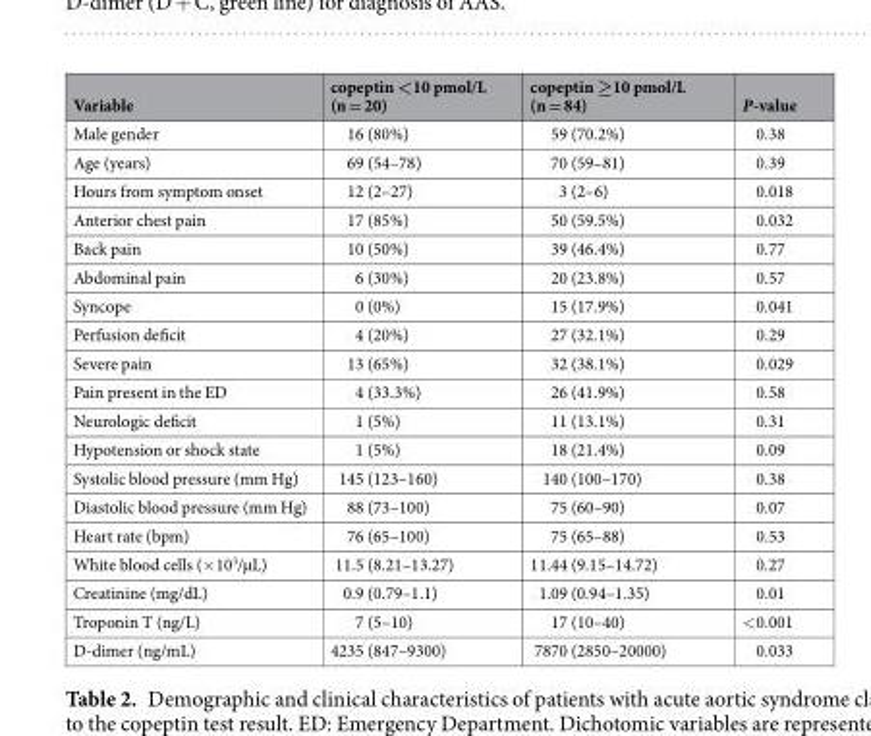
<table><thead><tr><td>Variable</td><td>copeptin &lt;10 pmol/L (n = 20)</td><td>copeptin ≥10 pmol/L (n = 84)</td><td>P-value</td></tr></thead><tbody><tr><td>Male gender</td><td>16 (80%)</td><td>59 (70.2%)</td><td>0.38</td></tr><tr><td>Age (years)</td><td>69 (54–78)</td><td>70 (59–81)</td><td>0.39</td></tr><tr><td>Hours from symptom onset</td><td>12 (2–27)</td><td>3 (2–6)</td><td>0.018</td></tr><tr><td>Anterior chest pain</td><td>17 (85%)</td><td>50 (59.5%)</td><td>0.032</td></tr><tr><td>Back pain</td><td>10 (50%)</td><td>39 (46.4%)</td><td>0.77</td></tr><tr><td>Abdominal pain</td><td>6 (30%)</td><td>20 (23.8%)</td><td>0.57</td></tr><tr><td>Syncope</td><td>0 (0%)</td><td>15 (17.9%)</td><td>0.041</td></tr><tr><td>Perfusion deficit</td><td>4 (20%)</td><td>27 (32.1%)</td><td>0.29</td></tr><tr><td>Severe pain</td><td>13 (65%)</td><td>32 (38.1%)</td><td>0.029</td></tr><tr><td>Pain present in the ED</td><td>4 (33.3%)</td><td>26 (41.9%)</td><td>0.58</td></tr><tr><td>Neurologic deficit</td><td>1 (5%)</td><td>11 (13.1%)</td><td>0.31</td></tr><tr><td>Hypotension or shock state</td><td>1 (5%)</td><td>18 (21.4%)</td><td>0.09</td></tr><tr><td>Systolic blood pressure (mm Hg)</td><td>145 (123–160)</td><td>140 (100–170)</td><td>0.38</td></tr><tr><td>Diastolic blood pressure (mm Hg)</td><td>88 (73–100)</td><td>75 (60–90)</td><td>0.07</td></tr><tr><td>Heart rate (bpm)</td><td>76 (65–100)</td><td>75 (65–88)</td><td>0.53</td></tr><tr><td>White blood cells (×10<sup>3</sup>/µL)</td><td>11.5 (8.21–13.27)</td><td>11.44 (9.15–14.72)</td><td>0.27</td></tr><tr><td>Creatinine (mg/dL)</td><td>0.9 (0.79–1.1)</td><td>1.09 (0.94–1.35)</td><td>0.01</td></tr><tr><td>Troponin T (ng/L)</td><td>7 (5–10)</td><td>17 (10–40)</td><td>&lt;0.001</td></tr><tr><td>D-dimer (ng/mL)</td><td>4235 (847–9300)</td><td>7870 (2850–20000)</td><td>0.033</td></tr></tbody></table>